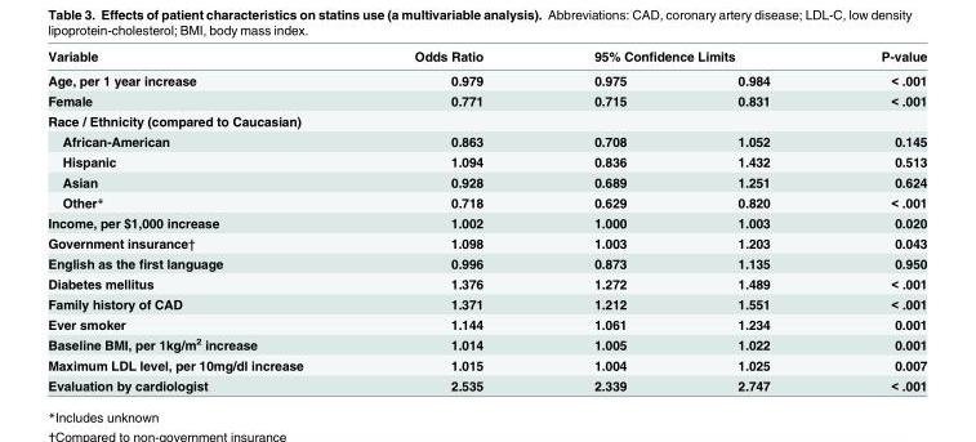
<table><thead><tr><td rowspan="2">Variable Age, per 1 year increase</td><td rowspan="2">Odds Ratio 0.979</td><td colspan="2">95% Confidence Limits</td><td rowspan="2">P-value &lt; .001</td></tr><tr><td>0.975</td><td>0.984</td></tr></thead><tbody><tr><td>Female</td><td>0.771</td><td>0.715</td><td>0.831</td><td>&lt; .001</td></tr><tr><td colspan="5">Race / Ethnicity (compared to Caucasian)</td></tr><tr><td>African-American</td><td>0.863</td><td>0.708</td><td>1.052</td><td>0.145</td></tr><tr><td>Hispanic</td><td>1.094</td><td>0.836</td><td>1.432</td><td>0.513</td></tr><tr><td>Asian</td><td>0.928</td><td>0.689</td><td>1.251</td><td>0.624</td></tr><tr><td>Other*</td><td>0.718</td><td>0.629</td><td>0.820</td><td>&lt; .001</td></tr><tr><td>Income, per $1,000 increase</td><td>1.002</td><td>1.000</td><td>1.003</td><td>0.020</td></tr><tr><td>Government insurance†</td><td>1.098</td><td>1.003</td><td>1.203</td><td>0.043</td></tr><tr><td>English as the first language</td><td>0.996</td><td>0.873</td><td>1.135</td><td>0.950</td></tr><tr><td>Diabetes mellitus</td><td>1.376</td><td>1.272</td><td>1.489</td><td>&lt; .001</td></tr><tr><td>Family history of CAD</td><td>1.371</td><td>1.212</td><td>1.551</td><td>&lt; .001</td></tr><tr><td>Ever smoker</td><td>1.144</td><td>1.061</td><td>1.234</td><td>0.001</td></tr><tr><td>Baseline BMI, per 1kg/m<sup>2</sup> increase</td><td>1.014</td><td>1.005</td><td>1.022</td><td>0.001</td></tr><tr><td>Maximum LDL level, per 10mg/dl increase</td><td>1.015</td><td>1.004</td><td>1.025</td><td>0.007</td></tr><tr><td>Evaluation by cardiologist</td><td>2.535</td><td>2.339</td><td>2.747</td><td>&lt; .001</td></tr></tbody></table>